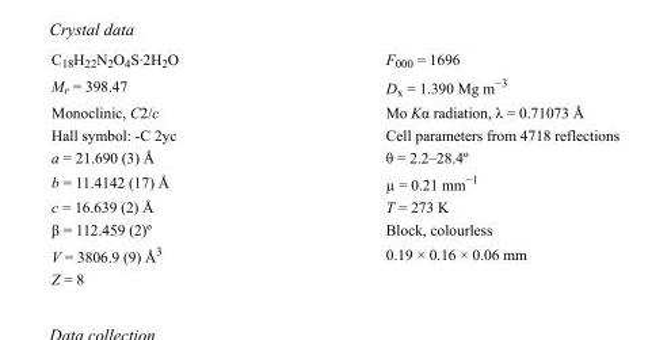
<table><tbody><tr><td>C<sub>18</sub>H<sub>22</sub>N<sub>2</sub>O<sub>4</sub>S·2H<sub>2</sub>O</td><td>F000 = 1696</td></tr><tr><td>M<sub>r</sub> = 398.47</td><td>D<sub>x</sub> = 1.390 Mg m<sup>−3</sup></td></tr><tr><td>Monoclinic, C2/c</td><td>Mo Kα radiation, λ = 0.71073 Å</td></tr><tr><td>Hall symbol: -C 2yc</td><td>Cell parameters from 4718 reflections</td></tr><tr><td>a = 21.690 (3) Å</td><td>θ = 2.2–28.4º</td></tr><tr><td>b = 11.4142 (17) Å</td><td>µ = 0.21 mm<sup>−1</sup></td></tr><tr><td>c = 16.639 (2) Å</td><td>T = 273 K</td></tr><tr><td>β = 112.459 (2)º</td><td>Block, colourless</td></tr><tr><td>V = 3806.9 (9) Å<sup>3</sup></td><td>0.19 × 0.16 × 0.06 mm</td></tr><tr><td>Z = 8</td><td></td></tr></tbody></table>